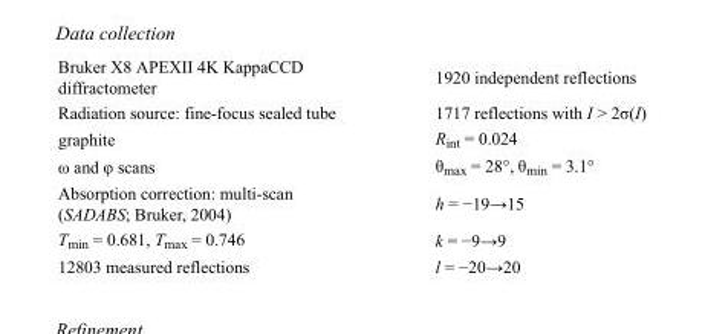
<table><tbody><tr><td>Bruker X8 APEXII 4K KappaCCD diffractometer</td><td>1920 independent reflections</td></tr><tr><td>Radiation source: fine-focus sealed tube</td><td>1717 reflections with I &gt; 2σ(I)</td></tr><tr><td>graphite</td><td>R<sub>int</sub> = 0.024</td></tr><tr><td>ω and φ scans</td><td>θ<sub>max</sub> = 28°, θ<sub>min</sub> = 3.1°</td></tr><tr><td>Absorption correction: multi-scan (SADABS; Bruker, 2004)</td><td>h = −19→15</td></tr><tr><td>T<sub>min</sub> = 0.681, T<sub>max</sub> = 0.746</td><td>k = −9→9</td></tr><tr><td>12803 measured reflections</td><td>l = −20→20</td></tr></tbody></table>